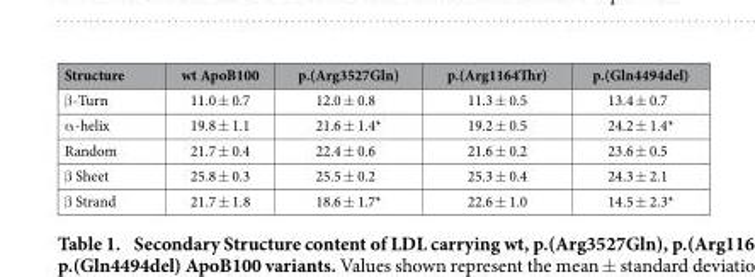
<table><thead><tr><td>Structure</td><td>wt ApoB100</td><td>p.(Arg3527Gln)</td><td>p.(Arg1164Thr)</td><td>p.(Gln4494del)</td></tr></thead><tbody><tr><td>β -Turn</td><td>11.0 ± 0.7</td><td>12.0 ± 0.8</td><td>11.3 ± 0.5</td><td>13.4 ± 0.7</td></tr><tr><td>α -helix</td><td>19.8 ± 1.1</td><td>21.6 ± 1.4*</td><td>19.2 ± 0.5</td><td>24.2 ± 1.4*</td></tr><tr><td>Random</td><td>21.7 ± 0.4</td><td>22.4 ± 0.6</td><td>21.6 ± 0.2</td><td>23.6 ± 0.5</td></tr><tr><td>β Sheet</td><td>25.8 ± 0.3</td><td>25.5 ± 0.2</td><td>25.3 ± 0.4</td><td>24.3 ± 2.1</td></tr><tr><td>β Strand</td><td>21.7 ± 1.8</td><td>18.6 ± 1.7*</td><td>22.6 ± 1.0</td><td>14.5 ± 2.3*</td></tr></tbody></table>